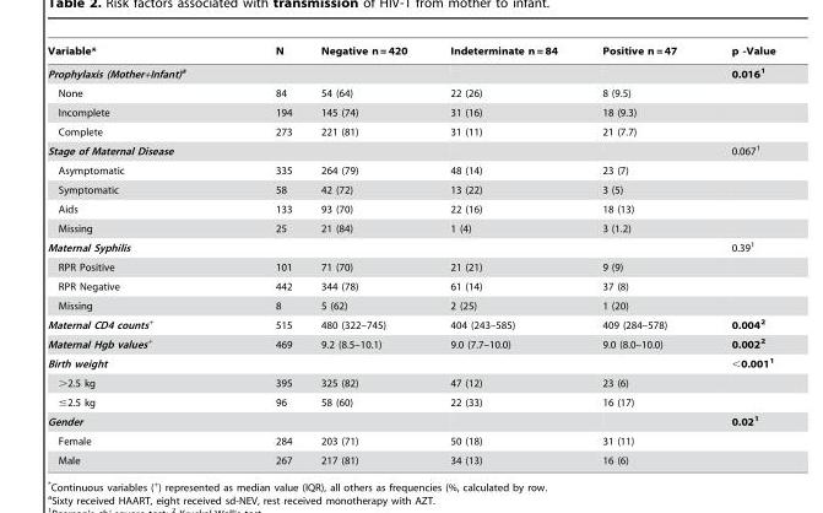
<table><thead><tr><td>Variable*</td><td>N</td><td>Negative n = 420</td><td>Indeterminate n = 84</td><td>Positive n = 47</td><td>p -Value</td></tr></thead><tbody><tr><td>Prophylaxis (Mother+Infant)a</td><td></td><td></td><td></td><td></td><td>0.0161</td></tr><tr><td>None</td><td>84</td><td>54 (64)</td><td>22 (26)</td><td>8 (9.5)</td><td></td></tr><tr><td>Incomplete</td><td>194</td><td>145 (74)</td><td>31 (16)</td><td>18 (9.3)</td><td></td></tr><tr><td>Complete</td><td>273</td><td>221 (81)</td><td>31 (11)</td><td>21 (7.7)</td><td></td></tr><tr><td>Stage of Maternal Disease</td><td></td><td></td><td></td><td></td><td>0.067<sup>1</sup></td></tr><tr><td>Asymptomatic</td><td>335</td><td>264 (79)</td><td>48 (14)</td><td>23 (7)</td><td></td></tr><tr><td>Symptomatic</td><td>58</td><td>42 (72)</td><td>13 (22)</td><td>3 (5)</td><td></td></tr><tr><td>Aids</td><td>133</td><td>93 (70)</td><td>22 (16)</td><td>18 (13)</td><td></td></tr><tr><td>Missing</td><td>25</td><td>21 (84)</td><td>1 (4)</td><td>3 (1.2)</td><td></td></tr><tr><td>Maternal Syphilis</td><td></td><td></td><td></td><td></td><td>0.39<sup>1</sup></td></tr><tr><td>RPR Positive</td><td>101</td><td>71 (70)</td><td>21 (21)</td><td>9 (9)</td><td></td></tr><tr><td>RPR Negative</td><td>442</td><td>344 (78)</td><td>61 (14)</td><td>37 (8)</td><td></td></tr><tr><td>Missing</td><td>8</td><td>5 (62)</td><td>2 (25)</td><td>1 (20)</td><td></td></tr><tr><td>Maternal CD4 counts<sup>+</sup></td><td>515</td><td>480 (322–745)</td><td>404 (243–585)</td><td>409 (284–578)</td><td>0.0042</td></tr><tr><td>Maternal Hgb values<sup>+</sup></td><td>469</td><td>9.2 (8.5–10.1)</td><td>9.0 (7.7–10.0)</td><td>9.0 (8.0–10.0)</td><td>0.0022</td></tr><tr><td>Birth weight</td><td></td><td></td><td></td><td></td><td>&lt;0.0011</td></tr><tr><td>&gt;2.5 kg</td><td>395</td><td>325 (82)</td><td>47 (12)</td><td>23 (6)</td><td></td></tr><tr><td>≤2.5 kg</td><td>96</td><td>58 (60)</td><td>22 (33)</td><td>16 (17)</td><td></td></tr><tr><td>Gender</td><td></td><td></td><td></td><td></td><td>0.021</td></tr><tr><td>Female</td><td>284</td><td>203 (71)</td><td>50 (18)</td><td>31 (11)</td><td></td></tr><tr><td>Male</td><td>267</td><td>217 (81)</td><td>34 (13)</td><td>16 (6)</td><td></td></tr></tbody></table>